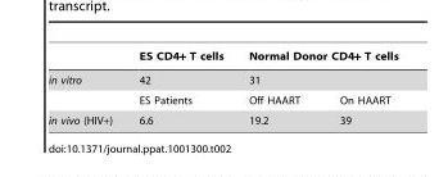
<table><thead><tr><td rowspan="3">in vitro</td><td rowspan="3">ES CD4+ T cells 42 ES Patients</td><td rowspan="2" colspan="2">Normal Donor CD4+ T cells 31</td></tr><tr></tr><tr><td>Off HAART</td><td>On HAART</td></tr></thead><tbody><tr><td>in vivo (HIV+)</td><td>6.6</td><td>19.2</td><td>39</td></tr></tbody></table>